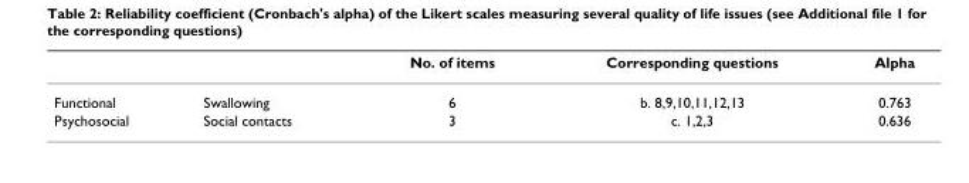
<table><thead><tr><td></td><td></td><td>No. of items</td><td>Corresponding questions</td><td>Alpha</td></tr></thead><tbody><tr><td>Functional</td><td>Swallowing</td><td>6</td><td>b. 8,9,10,11,12,13</td><td>0.763</td></tr><tr><td>Psychosocial</td><td>Social contacts</td><td>3</td><td>c. 1,2,3</td><td>0.636</td></tr></tbody></table>